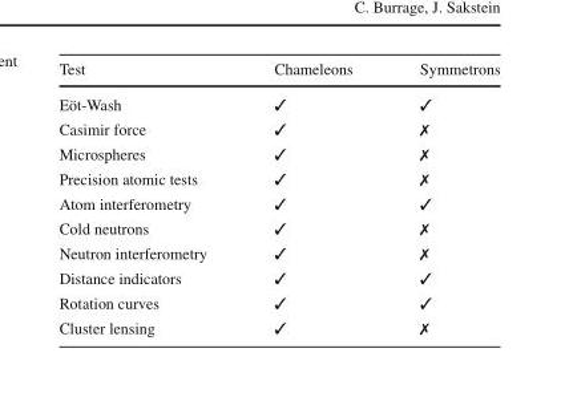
<table><thead><tr><td>Test</td><td>Chameleons</td><td>Symmetrons</td></tr></thead><tbody><tr><td>Eöt-Wash</td><td>✓</td><td>✓</td></tr><tr><td>Casimir force</td><td>✓</td><td>✗</td></tr><tr><td>Microspheres</td><td>✓</td><td>✗</td></tr><tr><td>Precision atomic tests</td><td>✓</td><td>✗</td></tr><tr><td>Atom interferometry</td><td>✓</td><td>✓</td></tr><tr><td>Cold neutrons</td><td>✓</td><td>✗</td></tr><tr><td>Neutron interferometry</td><td>✓</td><td>✗</td></tr><tr><td>Distance indicators</td><td>✓</td><td>✓</td></tr><tr><td>Rotation curves</td><td>✓</td><td>✓</td></tr><tr><td>Cluster lensing</td><td>✓</td><td>✗</td></tr></tbody></table>